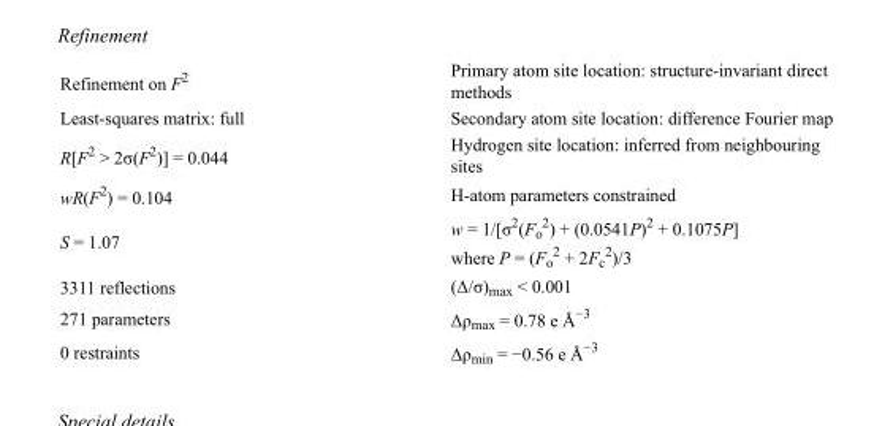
<table><tbody><tr><td>Refinement on F<sup>2</sup></td><td>Primary atom site location: structure-invariant direct methods</td></tr><tr><td>Least-squares matrix: full</td><td>Secondary atom site location: difference Fourier map</td></tr><tr><td>R[F<sup>2</sup> &gt; 2σ(F<sup>2</sup>)] = 0.044</td><td>Hydrogen site location: inferred from neighbouring sites</td></tr><tr><td>wR(F<sup>2</sup>) = 0.104</td><td>H-atom parameters constrained</td></tr><tr><td>S = 1.07</td><td>w = 1/[σ<sup>2</sup>(F<sub>o</sub> <sup>2</sup>) + (0.0541P)<sup>2</sup> + 0.1075P] where P = (F<sub>o</sub> <sup>2</sup> + 2F<sub>c</sub> <sup>2</sup>)/3</td></tr><tr><td>3311 reflections</td><td>(Δ/σ)<sub>max</sub> &lt; 0.001</td></tr><tr><td>271 parameters</td><td>Δρ<sub>max</sub> = 0.78 e Å<sup>−3</sup></td></tr><tr><td>0 restraints</td><td>Δρ<sub>min</sub> = −0.56 e Å<sup>−3</sup></td></tr></tbody></table>